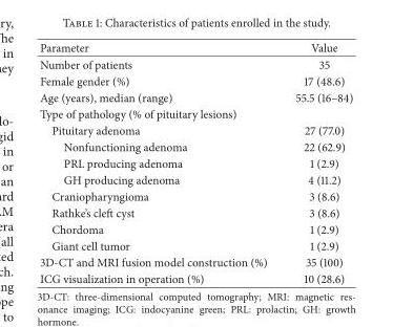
<table><thead><tr><td>Parameter</td><td>Value</td></tr></thead><tbody><tr><td>Number of patients</td><td>35</td></tr><tr><td>Female gender (%)</td><td>17 (48.6)</td></tr><tr><td>Age (years), median (range)</td><td>55.5 (16–84)</td></tr><tr><td colspan="2">Type of pathology (% of pituitary lesions)</td></tr><tr><td>Pituitary adenoma</td><td>27 (77.0)</td></tr><tr><td>Nonfunctioning adenoma</td><td>22 (62.9)</td></tr><tr><td>PRL producing adenoma</td><td>1 (2.9)</td></tr><tr><td>GH producing adenoma</td><td>4 (11.2)</td></tr><tr><td>Craniopharyngioma</td><td>3 (8.6)</td></tr><tr><td>Rathke’s cleft cyst</td><td>3 (8.6)</td></tr><tr><td>Chordoma</td><td>1 (2.9)</td></tr><tr><td>Giant cell tumor</td><td>1 (2.9)</td></tr><tr><td>3D-CT and MRI fusion model construction (%)</td><td>35 (100)</td></tr><tr><td>ICG visualization in operation (%)</td><td>10 (28.6)</td></tr></tbody></table>